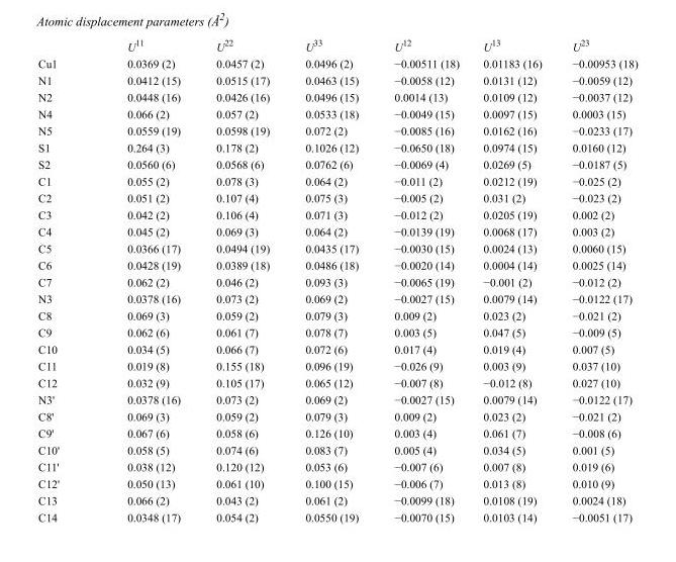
<table><thead><tr><td></td><td>U<sup>11</sup></td><td>U<sup>22</sup></td><td>U<sup>33</sup></td><td>U<sup>12</sup></td><td>U<sup>13</sup></td><td>U<sup>23</sup></td></tr></thead><tbody><tr><td>Cu1</td><td>0.0369 (2)</td><td>0.0457 (2)</td><td>0.0496 (2)</td><td>−0.00511 (18)</td><td>0.01183 (16)</td><td>−0.00953 (18)</td></tr><tr><td>N1</td><td>0.0412 (15)</td><td>0.0515 (17)</td><td>0.0463 (15)</td><td>−0.0058 (12)</td><td>0.0131 (12)</td><td>−0.0059 (12)</td></tr><tr><td>N2</td><td>0.0448 (16)</td><td>0.0426 (16)</td><td>0.0496 (15)</td><td>0.0014 (13)</td><td>0.0109 (12)</td><td>−0.0037 (12)</td></tr><tr><td>N4</td><td>0.066 (2)</td><td>0.057 (2)</td><td>0.0533 (18)</td><td>−0.0049 (15)</td><td>0.0097 (15)</td><td>0.0003 (15)</td></tr><tr><td>N5</td><td>0.0559 (19)</td><td>0.0598 (19)</td><td>0.072 (2)</td><td>−0.0085 (16)</td><td>0.0162 (16)</td><td>−0.0233 (17)</td></tr><tr><td>S1</td><td>0.264 (3)</td><td>0.178 (2)</td><td>0.1026 (12)</td><td>−0.0650 (18)</td><td>0.0974 (15)</td><td>0.0160 (12)</td></tr><tr><td>S2</td><td>0.0560 (6)</td><td>0.0568 (6)</td><td>0.0762 (6)</td><td>−0.0069 (4)</td><td>0.0269 (5)</td><td>−0.0187 (5)</td></tr><tr><td>C1</td><td>0.055 (2)</td><td>0.078 (3)</td><td>0.064 (2)</td><td>−0.011 (2)</td><td>0.0212 (19)</td><td>−0.025 (2)</td></tr><tr><td>C2</td><td>0.051 (2)</td><td>0.107 (4)</td><td>0.075 (3)</td><td>−0.005 (2)</td><td>0.031 (2)</td><td>−0.023 (2)</td></tr><tr><td>C3</td><td>0.042 (2)</td><td>0.106 (4)</td><td>0.071 (3)</td><td>−0.012 (2)</td><td>0.0205 (19)</td><td>0.002 (2)</td></tr><tr><td>C4</td><td>0.045 (2)</td><td>0.069 (3)</td><td>0.064 (2)</td><td>−0.0139 (19)</td><td>0.0068 (17)</td><td>0.003 (2)</td></tr><tr><td>C5</td><td>0.0366 (17)</td><td>0.0494 (19)</td><td>0.0435 (17)</td><td>−0.0030 (15)</td><td>0.0024 (13)</td><td>0.0060 (15)</td></tr><tr><td>C6</td><td>0.0428 (19)</td><td>0.0389 (18)</td><td>0.0486 (18)</td><td>−0.0020 (14)</td><td>0.0004 (14)</td><td>0.0025 (14)</td></tr><tr><td>C7</td><td>0.062 (2)</td><td>0.046 (2)</td><td>0.093 (3)</td><td>−0.0065 (19)</td><td>−0.001 (2)</td><td>−0.012 (2)</td></tr><tr><td>N3</td><td>0.0378 (16)</td><td>0.073 (2)</td><td>0.069 (2)</td><td>−0.0027 (15)</td><td>0.0079 (14)</td><td>−0.0122 (17)</td></tr><tr><td>C8</td><td>0.069 (3)</td><td>0.059 (2)</td><td>0.079 (3)</td><td>0.009 (2)</td><td>0.023 (2)</td><td>−0.021 (2)</td></tr><tr><td>C9</td><td>0.062 (6)</td><td>0.061 (7)</td><td>0.078 (7)</td><td>0.003 (5)</td><td>0.047 (5)</td><td>−0.009 (5)</td></tr><tr><td>C10</td><td>0.034 (5)</td><td>0.066 (7)</td><td>0.072 (6)</td><td>0.017 (4)</td><td>0.019 (4)</td><td>0.007 (5)</td></tr><tr><td>C11</td><td>0.019 (8)</td><td>0.155 (18)</td><td>0.096 (19)</td><td>−0.026 (9)</td><td>0.003 (9)</td><td>0.037 (10)</td></tr><tr><td>C12</td><td>0.032 (9)</td><td>0.105 (17)</td><td>0.065 (12)</td><td>−0.007 (8)</td><td>−0.012 (8)</td><td>0.027 (10)</td></tr><tr><td>N3&#x27;</td><td>0.0378 (16)</td><td>0.073 (2)</td><td>0.069 (2)</td><td>−0.0027 (15)</td><td>0.0079 (14)</td><td>−0.0122 (17)</td></tr><tr><td>C8&#x27;</td><td>0.069 (3)</td><td>0.059 (2)</td><td>0.079 (3)</td><td>0.009 (2)</td><td>0.023 (2)</td><td>−0.021 (2)</td></tr><tr><td>C9&#x27;</td><td>0.067 (6)</td><td>0.058 (6)</td><td>0.126 (10)</td><td>0.003 (4)</td><td>0.061 (7)</td><td>−0.008 (6)</td></tr><tr><td>C10&#x27;</td><td>0.058 (5)</td><td>0.074 (6)</td><td>0.083 (7)</td><td>0.005 (4)</td><td>0.034 (5)</td><td>0.001 (5)</td></tr><tr><td>C11&#x27;</td><td>0.038 (12)</td><td>0.120 (12)</td><td>0.053 (6)</td><td>−0.007 (6)</td><td>0.007 (8)</td><td>0.019 (6)</td></tr><tr><td>C12&#x27;</td><td>0.050 (13)</td><td>0.061 (10)</td><td>0.100 (15)</td><td>−0.006 (7)</td><td>0.013 (8)</td><td>0.010 (9)</td></tr><tr><td>C13</td><td>0.066 (2)</td><td>0.043 (2)</td><td>0.061 (2)</td><td>−0.0099 (18)</td><td>0.0108 (19)</td><td>0.0024 (18)</td></tr><tr><td>C14</td><td>0.0348 (17)</td><td>0.054 (2)</td><td>0.0550 (19)</td><td>−0.0070 (15)</td><td>0.0103 (14)</td><td>−0.0051 (17)</td></tr></tbody></table>